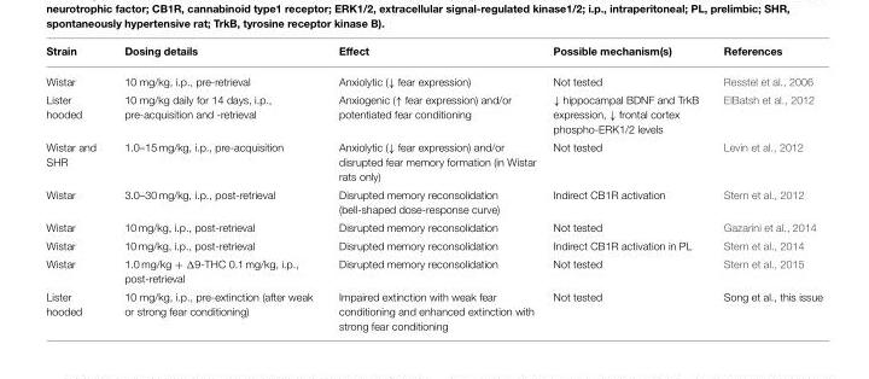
<table><thead><tr><td>Strain</td><td>Dosing details</td><td>Effect</td><td>Possible mechanism(s)</td><td>References</td></tr></thead><tbody><tr><td>Wistar</td><td>10 mg/kg, i.p., pre-retrieval</td><td>Anxiolytic (↓ fear expression)</td><td>Not tested</td><td>Resstel et al., 2006</td></tr><tr><td>Lister hooded</td><td>10 mg/kg daily for 14 days, i.p., pre-acquisition and -retrieval</td><td>Anxiogenic (↑ fear expression) and/or potentiated fear conditioning</td><td>↓ hippocampal BDNF and TrkB expression, ↓ frontal cortex phospho-ERK1/2 levels</td><td>ElBatsh et al., 2012</td></tr><tr><td>Wistar and SHR</td><td>1.0–15 mg/kg, i.p., pre-acquisition</td><td>Anxiolytic (↓ fear expression) and/or disrupted fear memory formation (in Wistar rats only)</td><td>Not tested</td><td>Levin et al., 2012</td></tr><tr><td>Wistar</td><td>3.0–30 mg/kg, i.p., post-retrieval</td><td>Disrupted memory reconsolidation (bell-shaped dose-response curve)</td><td>Indirect CB1R activation</td><td>Stern et al., 2012</td></tr><tr><td>Wistar</td><td>10 mg/kg, i.p., post-retrieval</td><td>Disrupted memory reconsolidation</td><td>Not tested</td><td>Gazarini et al., 2014</td></tr><tr><td>Wistar</td><td>10 mg/kg, i.p., post-retrieval</td><td>Disrupted memory reconsolidation</td><td>Indirect CB1R activation in PL</td><td>Stern et al., 2014</td></tr><tr><td>Wistar</td><td>1.0 mg/kg + Δ9-THC 0.1 mg/kg, i.p., post-retrieval</td><td>Disrupted memory reconsolidation</td><td>Not tested</td><td>Stern et al., 2015</td></tr><tr><td>Lister hooded</td><td>10 mg/kg, i.p., pre-extinction (after weak or strong fear conditioning)</td><td>Impaired extinction with weak fear conditioning and enhanced extinction with strong fear conditioning</td><td>Not tested</td><td>Song et al., this issue</td></tr></tbody></table>